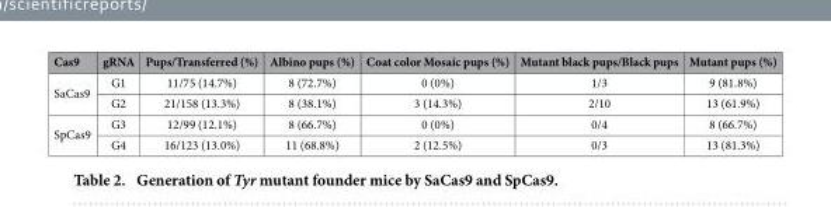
<table><thead><tr><td>Cas9</td><td>gRNA</td><td>Pups/Transferred (%)</td><td>Albino pups (%)</td><td>Coat color Mosaic pups (%)</td><td>Mutant black pups/Black pups</td><td>Mutant pups (%)</td></tr></thead><tbody><tr><td rowspan="2">SaCas9</td><td>G1</td><td>11/75 (14.7%)</td><td>8 (72.7%)</td><td>0 (0%)</td><td>1/3</td><td>9 (81.8%)</td></tr><tr><td>G2</td><td>21/158 (13.3%)</td><td>8 (38.1%)</td><td>3 (14.3%)</td><td>2/10</td><td>13 (61.9%)</td></tr><tr><td rowspan="2">SpCas9</td><td>G3</td><td>12/99 (12.1%)</td><td>8 (66.7%)</td><td>0 (0%)</td><td>0/4</td><td>8 (66.7%)</td></tr><tr><td>G4</td><td>16/123 (13.0%)</td><td>11 (68.8%)</td><td>2 (12.5%)</td><td>0/3</td><td>13 (81.3%)</td></tr></tbody></table>